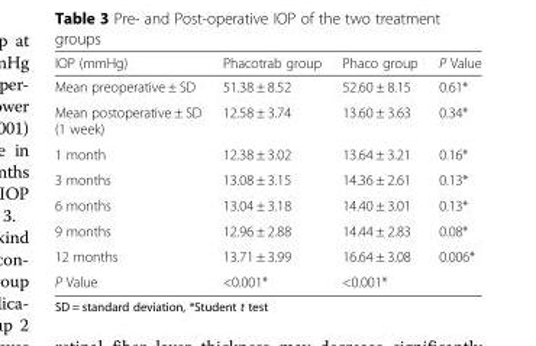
<table><thead><tr><td>IOP (mmHg)</td><td>Phacotrab group</td><td>Phaco group</td><td>P Value</td></tr></thead><tbody><tr><td>Mean preoperative ± SD</td><td>51.38 ± 8.52</td><td>52.60 ± 8.15</td><td>0.61*</td></tr><tr><td>Mean postoperative ± SD (1 week)</td><td>12.58 ± 3.74</td><td>13.60 ± 3.63</td><td>0.34*</td></tr><tr><td>1 month</td><td>12.38 ± 3.02</td><td>13.64 ± 3.21</td><td>0.16*</td></tr><tr><td>3 months</td><td>13.08 ± 3.15</td><td>14.36 ± 2.61</td><td>0.13*</td></tr><tr><td>6 months</td><td>13.04 ± 3.18</td><td>14.40 ± 3.01</td><td>0.13*</td></tr><tr><td>9 months</td><td>12.96 ± 2.88</td><td>14.44 ± 2.83</td><td>0.08*</td></tr><tr><td>12 months</td><td>13.71 ± 3.99</td><td>16.64 ± 3.08</td><td>0.006*</td></tr><tr><td>P Value</td><td>&lt;0.001*</td><td>&lt;0.001*</td><td></td></tr></tbody></table>